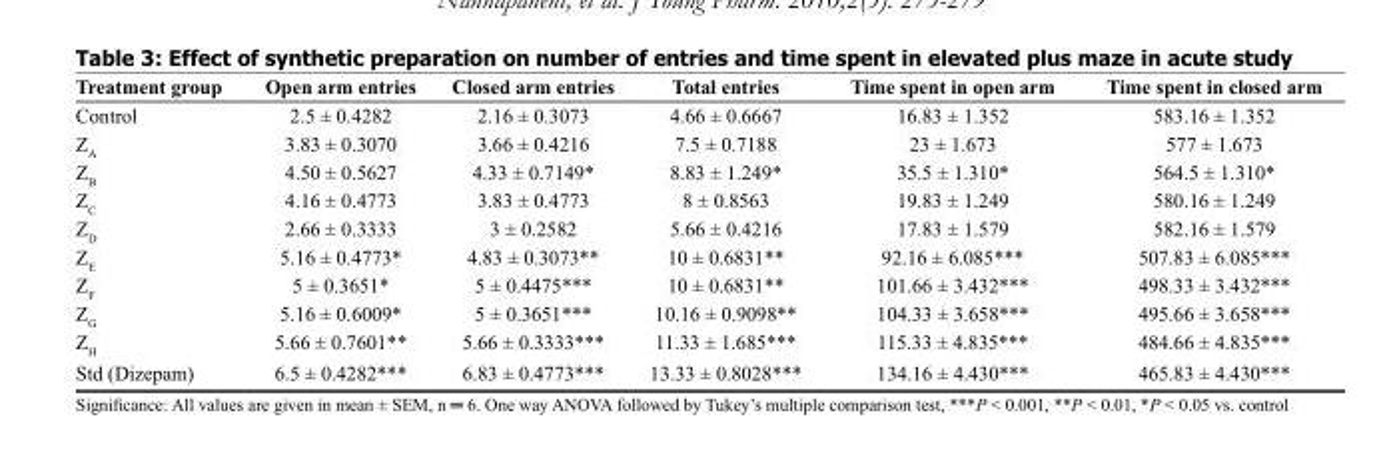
<table><thead><tr><td>Treatment group</td><td>Open arm entries</td><td>Closed arm entries</td><td>Total entries</td><td>Time spent in open arm</td><td>Time spent in closed arm</td></tr></thead><tbody><tr><td>Control</td><td>2.5 ± 0.4282</td><td>2.16 ± 0.3073</td><td>4.66 ± 0.6667</td><td>16.83 ± 1.352</td><td>583.16 ± 1.352</td></tr><tr><td>Z<sub>A</sub></td><td>3.83 ± 0.3070</td><td>3.66 ± 0.4216</td><td>7.5 ± 0.7188</td><td>23 ± 1.673</td><td>577 ± 1.673</td></tr><tr><td>Z<sub>B</sub></td><td>4.50 ± 0.5627</td><td>4.33 ± 0.7149*</td><td>8.83 ± 1.249*</td><td>35.5 ± 1.310*</td><td>564.5 ± 1.310*</td></tr><tr><td>Z<sub>C</sub></td><td>4.16 ± 0.4773</td><td>3.83 ± 0.4773</td><td>8 ± 0.8563</td><td>19.83 ± 1.249</td><td>580.16 ± 1.249</td></tr><tr><td>Z<sub>D</sub></td><td>2.66 ± 0.3333</td><td>3 ± 0.2582</td><td>5.66 ± 0.4216</td><td>17.83 ± 1.579</td><td>582.16 ± 1.579</td></tr><tr><td>Z<sub>E</sub></td><td>5.16 ± 0.4773*</td><td>4.83 ± 0.3073**</td><td>10 ± 0.6831**</td><td>92.16 ± 6.085***</td><td>507.83 ± 6.085***</td></tr><tr><td>Z<sub>F</sub></td><td>5 ± 0.3651*</td><td>5 ± 0.4475***</td><td>10 ± 0.6831**</td><td>101.66 ± 3.432***</td><td>498.33 ± 3.432***</td></tr><tr><td>Z<sub>G</sub></td><td>5.16 ± 0.6009*</td><td>5 ± 0.3651***</td><td>10.16 ± 0.9098**</td><td>104.33 ± 3.658***</td><td>495.66 ± 3.658***</td></tr><tr><td>Z<sub>H</sub></td><td>5.66 ± 0.7601**</td><td>5.66 ± 0.3333***</td><td>11.33 ± 1.685***</td><td>115.33 ± 4.835***</td><td>484.66 ± 4.835***</td></tr><tr><td>Std (Dizepam)</td><td>6.5 ± 0.4282***</td><td>6.83 ± 0.4773***</td><td>13.33 ± 0.8028***</td><td>134.16 ± 4.430***</td><td>465.83 ± 4.430***</td></tr></tbody></table>